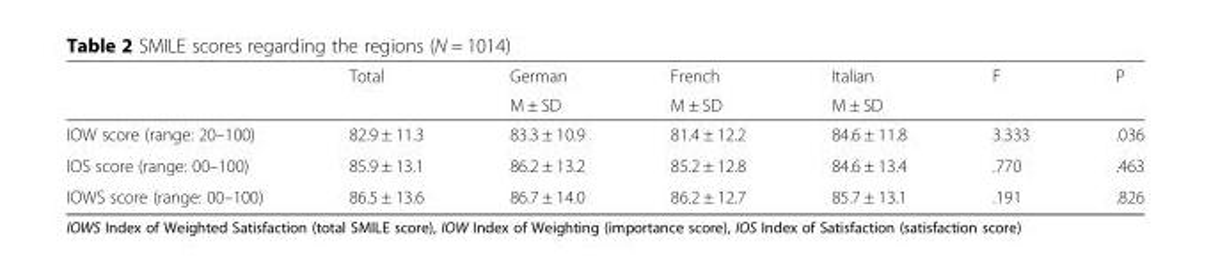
<table><thead><tr><td rowspan="2"></td><td rowspan="2">Total</td><td rowspan="2">German M ± SD</td><td rowspan="2">French M ± SD</td><td rowspan="2">Italian M ± SD</td><td rowspan="2">F</td><td rowspan="2">P</td></tr><tr></tr></thead><tbody><tr><td>IOW score (range: 20–100)</td><td>82.9 ± 11.3</td><td>83.3 ± 10.9</td><td>81.4 ± 12.2</td><td>84.6 ± 11.8</td><td>3.333</td><td>.036</td></tr><tr><td>IOS score (range: 00–100)</td><td>85.9 ± 13.1</td><td>86.2 ± 13.2</td><td>85.2 ± 12.8</td><td>84.6 ± 13.4</td><td>.770</td><td>.463</td></tr><tr><td>IOWS score (range: 00–100)</td><td>86.5 ± 13.6</td><td>86.7 ± 14.0</td><td>86.2 ± 12.7</td><td>85.7 ± 13.1</td><td>.191</td><td>.826</td></tr></tbody></table>